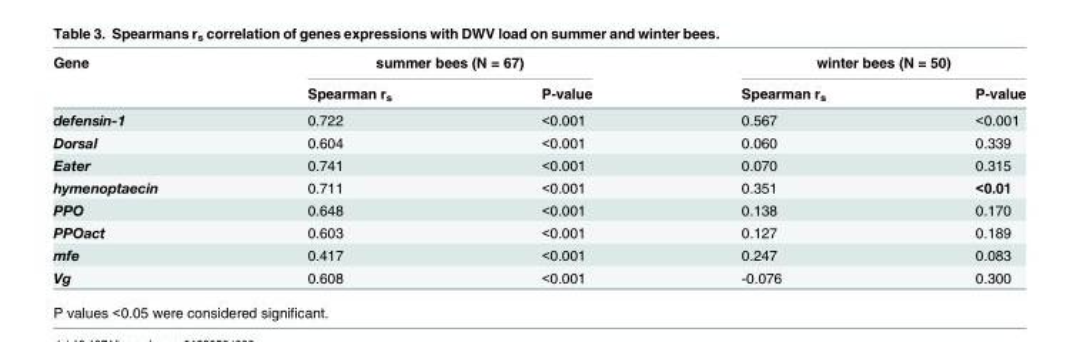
<table><thead><tr><td rowspan="2">Gene</td><td colspan="2">summer bees (N = 67)</td><td colspan="2">winter bees (N = 50)</td></tr><tr><td>Spearman r<sub>s</sub></td><td>P-value</td><td>Spearman r<sub>s</sub></td><td>P-value</td></tr></thead><tbody><tr><td>defensin-1</td><td>0.722</td><td>&lt;0.001</td><td>0.567</td><td>&lt;0.001</td></tr><tr><td>Dorsal</td><td>0.604</td><td>&lt;0.001</td><td>0.060</td><td>0.339</td></tr><tr><td>Eater</td><td>0.741</td><td>&lt;0.001</td><td>0.070</td><td>0.315</td></tr><tr><td>hymenoptaecin</td><td>0.711</td><td>&lt;0.001</td><td>0.351</td><td>&lt;0.01</td></tr><tr><td>PPO</td><td>0.648</td><td>&lt;0.001</td><td>0.138</td><td>0.170</td></tr><tr><td>PPOact</td><td>0.603</td><td>&lt;0.001</td><td>0.127</td><td>0.189</td></tr><tr><td>mfe</td><td>0.417</td><td>&lt;0.001</td><td>0.247</td><td>0.083</td></tr><tr><td>Vg</td><td>0.608</td><td>&lt;0.001</td><td>-0.076</td><td>0.300</td></tr></tbody></table>